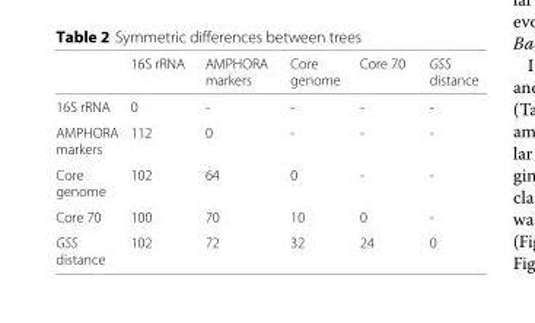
<table><thead><tr><td></td><td>16S rRNA</td><td>AMPHORA markers</td><td>Core genome</td><td>Core 70</td><td>GSS distance</td></tr></thead><tbody><tr><td>16S rRNA</td><td>0</td><td>-</td><td>-</td><td>-</td><td>-</td></tr><tr><td>AMPHORA markers</td><td>112</td><td>0</td><td>-</td><td>-</td><td>-</td></tr><tr><td>Core genome</td><td>102</td><td>64</td><td>0</td><td>-</td><td>-</td></tr><tr><td>Core 70</td><td>100</td><td>70</td><td>10</td><td>0</td><td>-</td></tr><tr><td>GSS distance</td><td>102</td><td>72</td><td>32</td><td>24</td><td>0</td></tr></tbody></table>